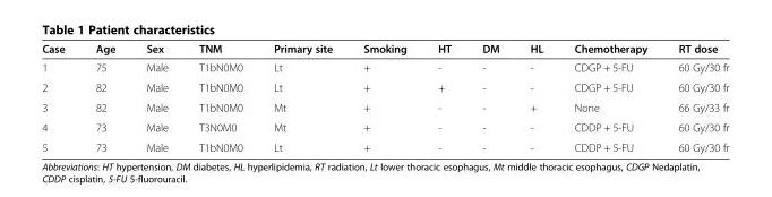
<table><thead><tr><td>Case</td><td>Age</td><td>Sex</td><td>TNM</td><td>Primary site</td><td>Smoking</td><td>HT</td><td>DM</td><td>HL</td><td>Chemotherapy</td><td>RT dose</td></tr></thead><tbody><tr><td>1</td><td>75</td><td>Male</td><td>T1bN0M0</td><td>Lt</td><td>+</td><td>-</td><td>-</td><td>-</td><td>CDGP + 5-FU</td><td>60 Gy/30 fr</td></tr><tr><td>2</td><td>82</td><td>Male</td><td>T1bN0M0</td><td>Lt</td><td>+</td><td>+</td><td>-</td><td>-</td><td>CDGP + 5-FU</td><td>60 Gy/30 fr</td></tr><tr><td>3</td><td>82</td><td>Male</td><td>T1bN0M0</td><td>Mt</td><td>+</td><td>-</td><td>-</td><td>+</td><td>None</td><td>66 Gy/33 fr</td></tr><tr><td>4</td><td>73</td><td>Male</td><td>T3N0M0</td><td>Mt</td><td>+</td><td>-</td><td>-</td><td>-</td><td>CDDP + 5-FU</td><td>60 Gy/30 fr</td></tr><tr><td>5</td><td>73</td><td>Male</td><td>T1bN0M0</td><td>Lt</td><td>+</td><td>-</td><td>-</td><td>-</td><td>CDDP + 5-FU</td><td>60 Gy/30 fr</td></tr></tbody></table>